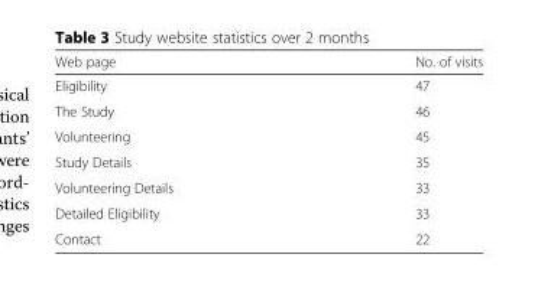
<table><thead><tr><td>Web page</td><td>No. of visits</td></tr></thead><tbody><tr><td>Eligibility</td><td>47</td></tr><tr><td>The Study</td><td>46</td></tr><tr><td>Volunteering</td><td>45</td></tr><tr><td>Study Details</td><td>35</td></tr><tr><td>Volunteering Details</td><td>33</td></tr><tr><td>Detailed Eligibility</td><td>33</td></tr><tr><td>Contact</td><td>22</td></tr></tbody></table>